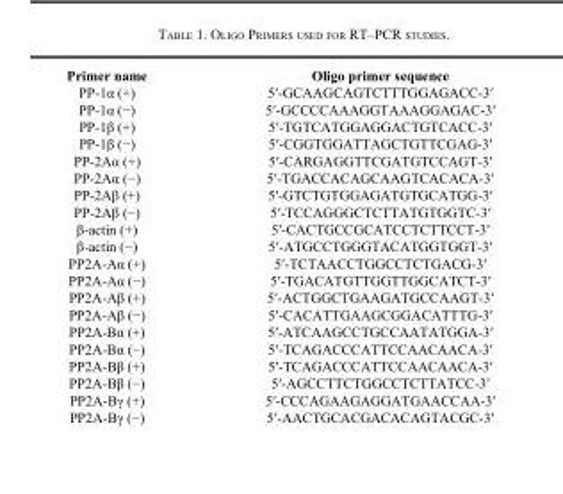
<table><thead><tr><td>Primer name</td><td>Oligo primer sequence</td></tr></thead><tbody><tr><td>PP-1α (+)</td><td>5′-GCAAGCAGTCTTTGGAGACC-3′</td></tr><tr><td>PP-1α (−)</td><td>5′-GCCCCAAAGGTAAAGGAGAC-3′</td></tr><tr><td>PP-1β (+)</td><td>5′-TGTCATGGAGGACTGTCACC-3′</td></tr><tr><td>PP-1β (−)</td><td>5′-CGGTGGATTAGCTGTTCGAG-3′</td></tr><tr><td>PP-2Aα (+)</td><td>5′-CARGAGGTTCGATGTCCAGT-3′</td></tr><tr><td>PP-2Aα (−)</td><td>5′-TGACCACAGCAAGTCACACA-3′</td></tr><tr><td>PP-2Aβ (+)</td><td>5′-GTCTGTGGAGATGTGCATGG-3′</td></tr><tr><td>PP-2Aβ (−)</td><td>5′-TCCAGGGCTCTTATGTGGTC-3′</td></tr><tr><td>β-actin (+)</td><td>5′-CACTGCCGCATCCTCTTCCT-3′</td></tr><tr><td>β-actin (−)</td><td>5′-ATGCCTGGGTACATGGTGGT-3′</td></tr><tr><td>PP2A-Aα (+)</td><td>5′-TCTAACCTGGCCTCTGACG-3′</td></tr><tr><td>PP2A-Aα (−)</td><td>5′-TGACATGTTGGTTGGCATCT-3′</td></tr><tr><td>PP2A-Aβ (+)</td><td>5′-ACTGGCTGAAGATGCCAAGT-3′</td></tr><tr><td>PP2A-Aβ (−)</td><td>5′-CACATTGAAGCGGACATTTG-3′</td></tr><tr><td>PP2A-Bα (+)</td><td>5′-ATCAAGCCTGCCAATATGGA-3′</td></tr><tr><td>PP2A-Bα (−)</td><td>5′-TCAGACCCATTCCAACAACA-3′</td></tr><tr><td>PP2A-Bβ (+)</td><td>5′-TCAGACCCATTCCAACAACA-3′</td></tr><tr><td>PP2A-Bβ (−)</td><td>5′-AGCCTTCTGGCCTCTTATCC-3′</td></tr><tr><td>PP2A-Bγ (+)</td><td>5′-CCCAGAAGAGGATGAACCAA-3′</td></tr><tr><td>PP2A-Bγ (−)</td><td>5′-AACTGCACGACACAGTACGC-3′</td></tr></tbody></table>